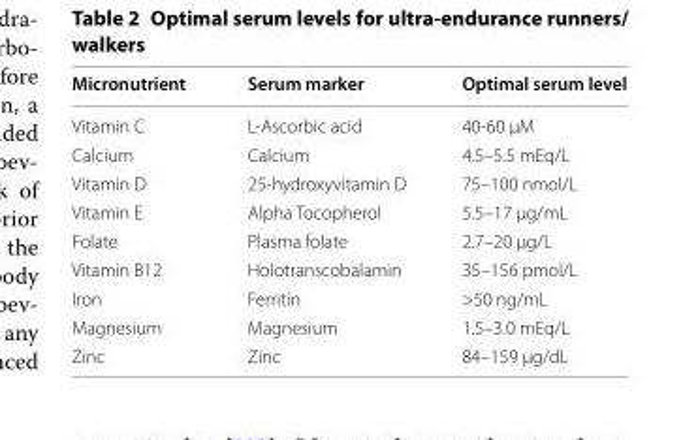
<table><thead><tr><td>Micronutrient</td><td>Serum marker</td><td>Optimal serum level</td></tr></thead><tbody><tr><td>Vitamin C</td><td>L-Ascorbic acid</td><td>40-60 μM</td></tr><tr><td>Calcium</td><td>Calcium</td><td>4.5–5.5 mEq/L</td></tr><tr><td>Vitamin D</td><td>25-hydroxyvitamin D</td><td>75–100 nmol/L</td></tr><tr><td>Vitamin E</td><td>Alpha Tocopherol</td><td>5.5–17 µg/mL</td></tr><tr><td>Folate</td><td>Plasma folate</td><td>2.7–20 μg/L</td></tr><tr><td>Vitamin B12</td><td>Holotranscobalamin</td><td>35–156 pmol/L</td></tr><tr><td>Iron</td><td>Ferritin</td><td>&gt;50 ng/mL</td></tr><tr><td>Magnesium</td><td>Magnesium</td><td>1.5–3.0 mEq/L</td></tr><tr><td>Zinc</td><td>Zinc</td><td>84–159 µg/dL</td></tr></tbody></table>